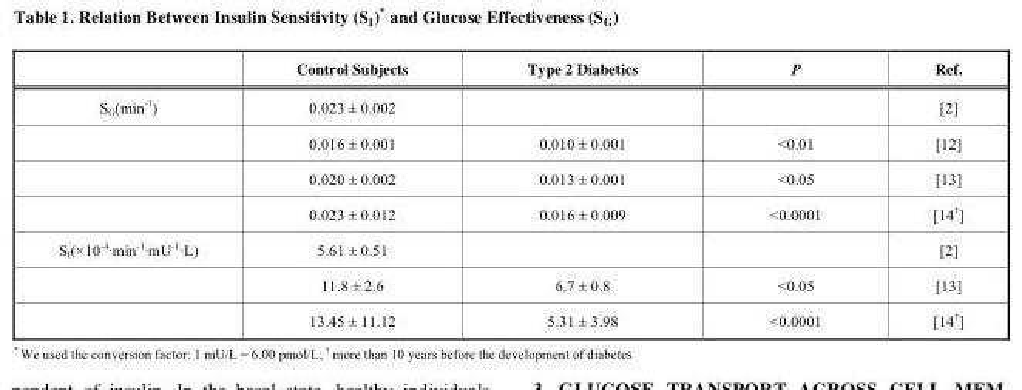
<table><thead><tr><td></td><td>Control Subjects</td><td>Type 2 Diabetics</td><td>P</td><td>Ref.</td></tr></thead><tbody><tr><td rowspan="4">S<sub>G</sub>(min<sup>-1</sup>)</td><td>0.023 ± 0.002</td><td></td><td></td><td>[2]</td></tr><tr><td>0.016 ± 0.001</td><td>0.010 ± 0.001</td><td>&lt;0.01</td><td>[12]</td></tr><tr><td>0.020 ± 0.002</td><td>0.013 ± 0.001</td><td>&lt;0.05</td><td>[13]</td></tr><tr><td>0.023 ± 0.012</td><td>0.016 ± 0.009</td><td>&lt;0.0001</td><td>[14†]</td></tr><tr><td rowspan="3">S<sub>I</sub>(×10<sup>-4</sup>·min<sup>-1</sup>·mU<sup>-1</sup>·L)</td><td>5.61 ± 0.51</td><td></td><td></td><td>[2]</td></tr><tr><td>11.8 ± 2.6</td><td>6.7 ± 0.8</td><td>&lt;0.05</td><td>[13]</td></tr><tr><td>13.45 ± 11.12</td><td>5.31 ± 3.98</td><td>&lt;0.0001</td><td>[14†]</td></tr></tbody></table>